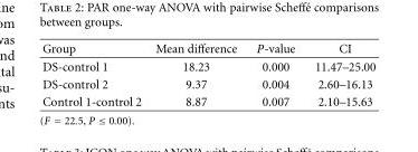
<table><thead><tr><td>Group</td><td>Mean difference</td><td>P-value</td><td>CI</td></tr></thead><tbody><tr><td>DS-control 1</td><td>18.23</td><td>0.000</td><td>11.47–25.00</td></tr><tr><td>DS-control 2</td><td>9.37</td><td>0.004</td><td>2.60–16.13</td></tr><tr><td>Control 1-control 2</td><td>8.87</td><td>0.007</td><td>2.10–15.63</td></tr></tbody></table>